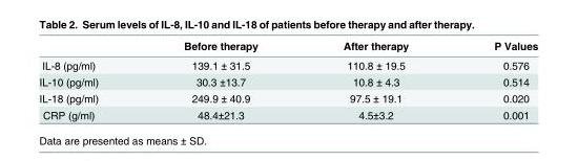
<table><thead><tr><td></td><td>Before therapy</td><td>After therapy</td><td>P Values</td></tr></thead><tbody><tr><td>IL-8 (pg/ml)</td><td>139.1 ± 31.5</td><td>110.8 ± 19.5</td><td>0.576</td></tr><tr><td>IL-10 (pg/ml)</td><td>30.3 ±13.7</td><td>10.8 ± 4.3</td><td>0.514</td></tr><tr><td>IL-18 (pg/ml)</td><td>249.9 ± 40.9</td><td>97.5 ± 19.1</td><td>0.020</td></tr><tr><td>CRP (g/ml)</td><td>48.4±21.3</td><td>4.5±3.2</td><td>0.001</td></tr></tbody></table>